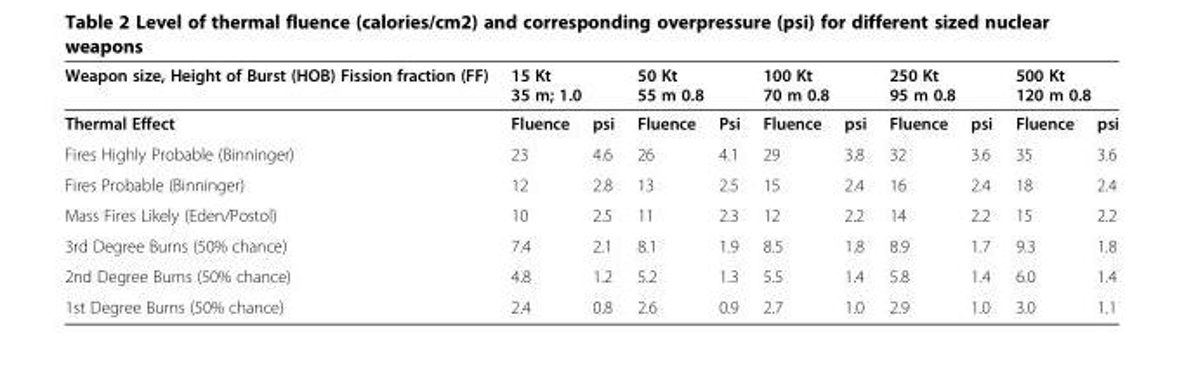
<table><thead><tr><td rowspan="2">Weapon size, Height of Burst (HOB) Fission fraction (FF) Thermal Effect</td><td colspan="2">15 Kt 35 m; 1.0</td><td colspan="2">50 Kt 55 m 0.8</td><td colspan="2">100 Kt 70 m 0.8</td><td colspan="2">250 Kt 95 m 0.8</td><td colspan="2">500 Kt 120 m 0.8</td></tr><tr><td>Fluence</td><td>psi</td><td>Fluence</td><td>Psi</td><td>Fluence</td><td>psi</td><td>Fluence</td><td>psi</td><td>Fluence</td><td>psi</td></tr></thead><tbody><tr><td>Fires Highly Probable (Binninger)</td><td>23</td><td>4.6</td><td>26</td><td>4.1</td><td>29</td><td>3.8</td><td>32</td><td>3.6</td><td>35</td><td>3.6</td></tr><tr><td>Fires Probable (Binninger)</td><td>12</td><td>2.8</td><td>13</td><td>2.5</td><td>15</td><td>2.4</td><td>16</td><td>2.4</td><td>18</td><td>2.4</td></tr><tr><td>Mass Fires Likely (Eden/Postol)</td><td>10</td><td>2.5</td><td>11</td><td>2.3</td><td>12</td><td>2.2</td><td>14</td><td>2.2</td><td>15</td><td>2.2</td></tr><tr><td>3rd Degree Burns (50% chance)</td><td>7.4</td><td>2.1</td><td>8.1</td><td>1.9</td><td>8.5</td><td>1.8</td><td>8.9</td><td>1.7</td><td>9.3</td><td>1.8</td></tr><tr><td>2nd Degree Burns (50% chance)</td><td>4.8</td><td>1.2</td><td>5.2</td><td>1.3</td><td>5.5</td><td>1.4</td><td>5.8</td><td>1.4</td><td>6.0</td><td>1.4</td></tr><tr><td>1st Degree Burns (50% chance)</td><td>2.4</td><td>0.8</td><td>2.6</td><td>0.9</td><td>2.7</td><td>1.0</td><td>2.9</td><td>1.0</td><td>3.0</td><td>1.1</td></tr></tbody></table>